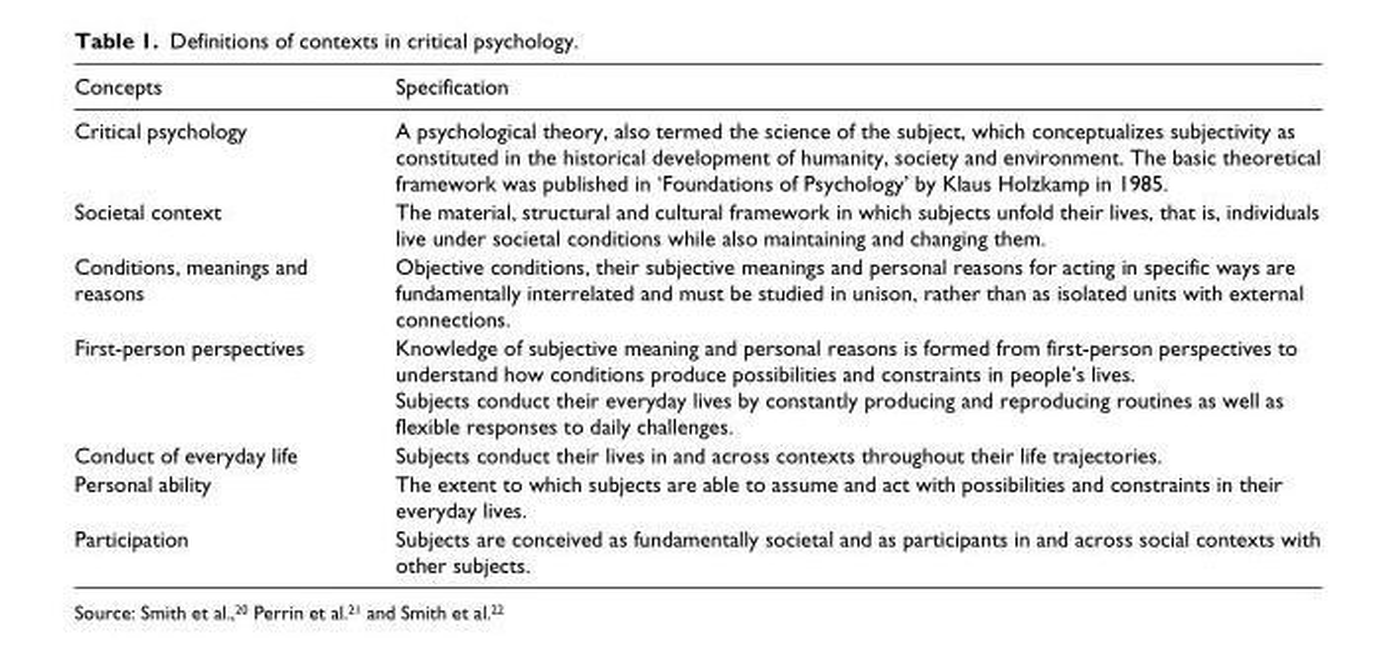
<table><thead><tr><td>Concepts</td><td>Specification</td></tr></thead><tbody><tr><td>Critical psychology</td><td>A psychological theory, also termed the science of the subject, which conceptualizes subjectivity as constituted in the historical development of humanity, society and environment. The basic theoretical framework was published in ‘Foundations of Psychology’ by Klaus Holzkamp in 1985.</td></tr><tr><td>Societal context</td><td>The material, structural and cultural framework in which subjects unfold their lives, that is, individuals live under societal conditions while also maintaining and changing them.</td></tr><tr><td>Conditions, meanings and reasons</td><td>Objective conditions, their subjective meanings and personal reasons for acting in specific ways are fundamentally interrelated and must be studied in unison, rather than as isolated units with external connections.</td></tr><tr><td>First-person perspectives</td><td>Knowledge of subjective meaning and personal reasons is formed from first-person perspectives to understand how conditions produce possibilities and constraints in people’s lives. Subjects conduct their everyday lives by constantly producing and reproducing routines as well as flexible responses to daily challenges.</td></tr><tr><td>Conduct of everyday life</td><td>Subjects conduct their lives in and across contexts throughout their life trajectories.</td></tr><tr><td>Personal ability</td><td>The extent to which subjects are able to assume and act with possibilities and constraints in their everyday lives.</td></tr><tr><td>Participation</td><td>Subjects are conceived as fundamentally societal and as participants in and across social contexts with other subjects.</td></tr></tbody></table>